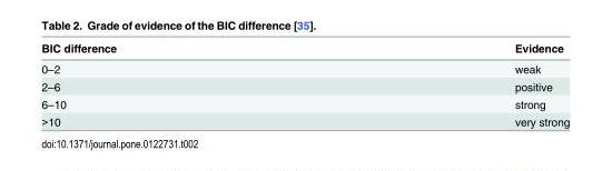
<table><thead><tr><td>BIC difference</td><td>Evidence</td></tr></thead><tbody><tr><td>0–2</td><td>weak</td></tr><tr><td>2–6</td><td>positive</td></tr><tr><td>6–10</td><td>strong</td></tr><tr><td>&gt;10</td><td>very strong</td></tr></tbody></table>